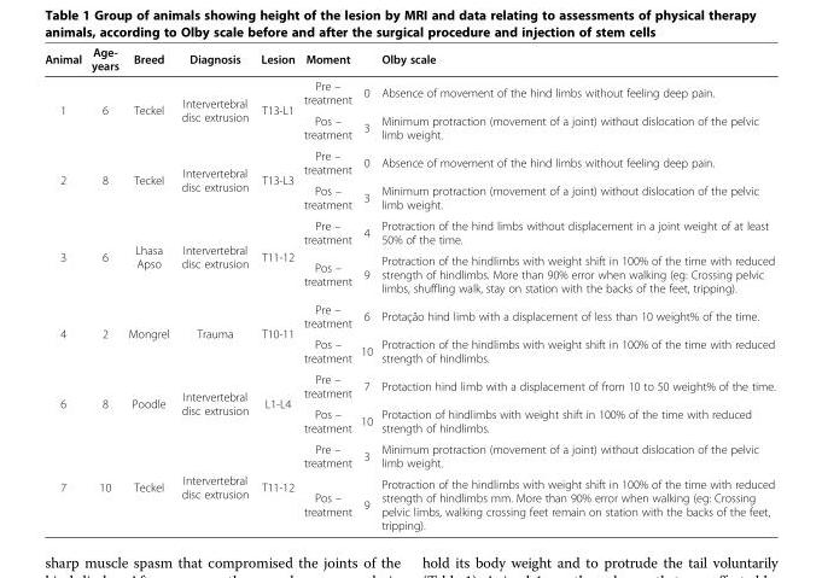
<table><thead><tr><td>Animal</td><td>Age- years</td><td>Breed</td><td>Diagnosis</td><td>Lesion</td><td>Moment</td><td></td><td>Olby scale</td></tr></thead><tbody><tr><td rowspan="2">1</td><td rowspan="2">6</td><td rowspan="2">Teckel</td><td rowspan="2">Intervertebral disc extrusion</td><td rowspan="2">T13-L1</td><td>Pre – treatment</td><td>0</td><td>Absence of movement of the hind limbs without feeling deep pain.</td></tr><tr><td>Pos – treatment</td><td>3</td><td>Minimum protraction (movement of a joint) without dislocation of the pelvic limb weight.</td></tr><tr><td rowspan="2">2</td><td rowspan="2">8</td><td rowspan="2">Teckel</td><td rowspan="2">Intervertebral disc extrusion</td><td rowspan="2">T13-L3</td><td>Pre – treatment</td><td>0</td><td>Absence of movement of the hind limbs without feeling deep pain.</td></tr><tr><td>Pos – treatment</td><td>3</td><td>Minimum protraction (movement of a joint) without dislocation of the pelvic limb weight.</td></tr><tr><td rowspan="2">3</td><td rowspan="2">6</td><td rowspan="2">Lhasa Apso</td><td rowspan="2">Intervertebral disc extrusion</td><td rowspan="2">T11-12</td><td>Pre – treatment</td><td>4</td><td>Protraction of the hind limbs without displacement in a joint weight of at least 50% of the time.</td></tr><tr><td>Pos – treatment</td><td>9</td><td>Protraction of the hindlimbs with weight shift in 100% of the time with reduced strength of hindlimbs. More than 90% error when walking (eg: Crossing pelvic limbs, shuffling walk, stay on station with the backs of the feet, tripping).</td></tr><tr><td rowspan="2">4</td><td rowspan="2">2</td><td rowspan="2">Mongrel</td><td rowspan="2">Trauma</td><td rowspan="2">T10-11</td><td>Pre – treatment</td><td>6</td><td>Protação hind limb with a displacement of less than 10 weight% of the time.</td></tr><tr><td>Pos – treatment</td><td>10</td><td>Protraction of the hindlimbs with weight shift in 100% of the time with reduced strength of hindlimbs.</td></tr><tr><td rowspan="2">6</td><td rowspan="2">8</td><td rowspan="2">Poodle</td><td rowspan="2">Intervertebral disc extrusion</td><td rowspan="2">L1-L4</td><td>Pre – treatment</td><td>7</td><td>Protaction hind limb with a displacement of from 10 to 50 weight% of the time.</td></tr><tr><td>Pos – treatment</td><td>10</td><td>Protaction of hindlimbs with weight shift in 100% of the time with reduced strength of hindlimbs.</td></tr><tr><td rowspan="2">7</td><td rowspan="2">10</td><td rowspan="2">Teckel</td><td rowspan="2">Intervertebral disc extrusion</td><td rowspan="2">T11-12</td><td>Pre – treatment</td><td>3</td><td>Minimum protraction (movement of a joint) without dislocation of the pelvic limb weight.</td></tr><tr><td>Pos – treatment</td><td>9</td><td>Protraction of the hindlimbs with weight shift in 100% of the time with reduced strength of hindlimbs mm. More than 90% error when walking (eg: Crossing pelvic limbs, walking crossing feet remain on station with the backs of the feet, tripping).</td></tr></tbody></table>